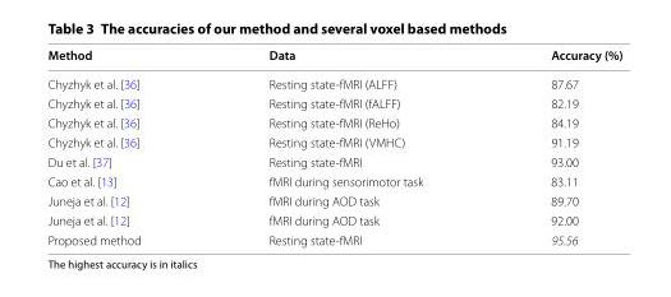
<table><thead><tr><td>Method</td><td>Data</td><td>Accuracy (%)</td></tr></thead><tbody><tr><td>Chyzhyk et al. [36]</td><td>Resting state-fMRI (ALFF)</td><td>87.67</td></tr><tr><td>Chyzhyk et al. [36]</td><td>Resting state-fMRI (fALFF)</td><td>82.19</td></tr><tr><td>Chyzhyk et al. [36]</td><td>Resting state-fMRI (ReHo)</td><td>84.19</td></tr><tr><td>Chyzhyk et al. [36]</td><td>Resting state-fMRI (VMHC)</td><td>91.19</td></tr><tr><td>Du et al. [37]</td><td>Resting state-fMRI</td><td>93.00</td></tr><tr><td>Cao et al. [13]</td><td>fMRI during sensorimotor task</td><td>83.11</td></tr><tr><td>Juneja et al. [12]</td><td>fMRI during AOD task</td><td>89.70</td></tr><tr><td>Juneja et al. [12]</td><td>fMRI during AOD task</td><td>92.00</td></tr><tr><td>Proposed method</td><td>Resting state-fMRI</td><td>95.56</td></tr></tbody></table>